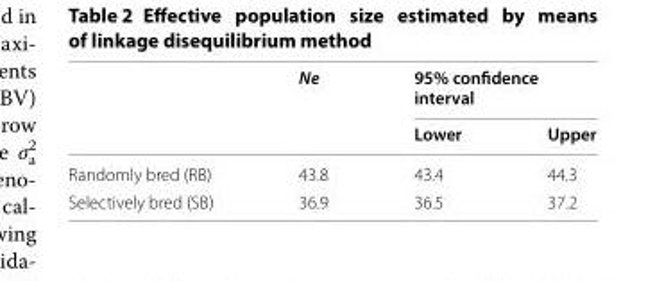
<table><thead><tr><td rowspan="2"></td><td rowspan="2">Ne</td><td colspan="2">95% confidence interval</td></tr><tr><td>Lower</td><td>Upper</td></tr></thead><tbody><tr><td>Randomly bred (RB)</td><td>43.8</td><td>43.4</td><td>44.3</td></tr><tr><td>Selectively bred (SB)</td><td>36.9</td><td>36.5</td><td>37.2</td></tr></tbody></table>